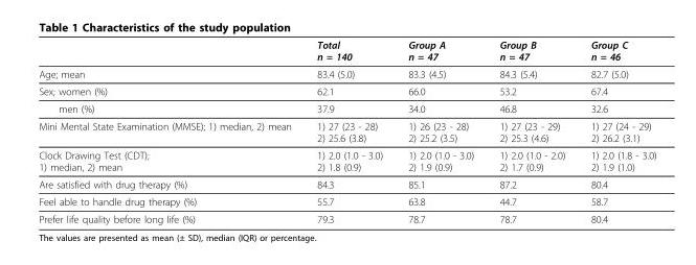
<table><thead><tr><td></td><td>Total n = 140</td><td>Group A n = 47</td><td>Group B n = 47</td><td>Group C n = 46</td></tr></thead><tbody><tr><td>Age; mean</td><td>83.4 (5.0)</td><td>83.3 (4.5)</td><td>84.3 (5.4)</td><td>82.7 (5.0)</td></tr><tr><td>Sex; women (%)</td><td>62.1</td><td>66.0</td><td>53.2</td><td>67.4</td></tr><tr><td>men (%)</td><td>37.9</td><td>34.0</td><td>46.8</td><td>32.6</td></tr><tr><td>Mini Mental State Examination (MMSE); 1) median, 2) mean</td><td>1) 27 (23 - 28) 2) 25.6 (3.8)</td><td>1) 26 (23 - 28) 2) 25.2 (3.5)</td><td>1) 27 (23 - 29) 2) 25.3 (4.6)</td><td>1) 27 (24 - 29) 2) 26.2 (3.1)</td></tr><tr><td>Clock Drawing Test (CDT); 1) median, 2) mean</td><td>1) 2.0 (1.0 - 3.0) 2) 1.8 (0.9)</td><td>1) 2.0 (1.0 - 3.0) 2) 1.9 (0.9)</td><td>1) 2.0 (1.0 - 2.0) 2) 1.7 (0.9)</td><td>1) 2.0 (1.8 - 3.0) 2) 1.9 (1.0)</td></tr><tr><td>Are satisfied with drug therapy (%)</td><td>84.3</td><td>85.1</td><td>87.2</td><td>80.4</td></tr><tr><td>Feel able to handle drug therapy (%)</td><td>55.7</td><td>63.8</td><td>44.7</td><td>58.7</td></tr><tr><td>Prefer life quality before long life (%)</td><td>79.3</td><td>78.7</td><td>78.7</td><td>80.4</td></tr></tbody></table>